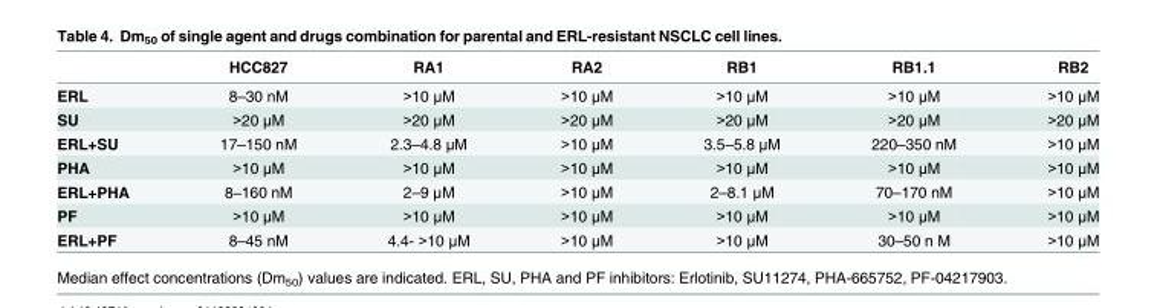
<table><thead><tr><td></td><td>HCC827</td><td>RA1</td><td>RA2</td><td>RB1</td><td>RB1.1</td><td>RB2</td></tr></thead><tbody><tr><td>ERL</td><td>8–30 nM</td><td>&gt;10 μM</td><td>&gt;10 μM</td><td>&gt;10 μM</td><td>&gt;10 μM</td><td>&gt;10 μM</td></tr><tr><td>SU</td><td>&gt;20 μM</td><td>&gt;20 μM</td><td>&gt;20 μM</td><td>&gt;20 μM</td><td>&gt;20 μM</td><td>&gt;20 μM</td></tr><tr><td>ERL+SU</td><td>17–150 nM</td><td>2.3–4.8 μM</td><td>&gt;10 μM</td><td>3.5–5.8 μM</td><td>220–350 nM</td><td>&gt;10 μM</td></tr><tr><td>PHA</td><td>&gt;10 μM</td><td>&gt;10 μM</td><td>&gt;10 μM</td><td>&gt;10 μM</td><td>&gt;10 μM</td><td>&gt;10 μM</td></tr><tr><td>ERL+PHA</td><td>8–160 nM</td><td>2–9 μM</td><td>&gt;10 μM</td><td>2–8.1 μM</td><td>70–170 nM</td><td>&gt;10 μM</td></tr><tr><td>PF</td><td>&gt;10 μM</td><td>&gt;10 μM</td><td>&gt;10 μM</td><td>&gt;10 μM</td><td>&gt;10 μM</td><td>&gt;10 μM</td></tr><tr><td>ERL+PF</td><td>8–45 nM</td><td>4.4- &gt;10 μM</td><td>&gt;10 μM</td><td>&gt;10 μM</td><td>30–50 n M</td><td>&gt;10 μM</td></tr></tbody></table>